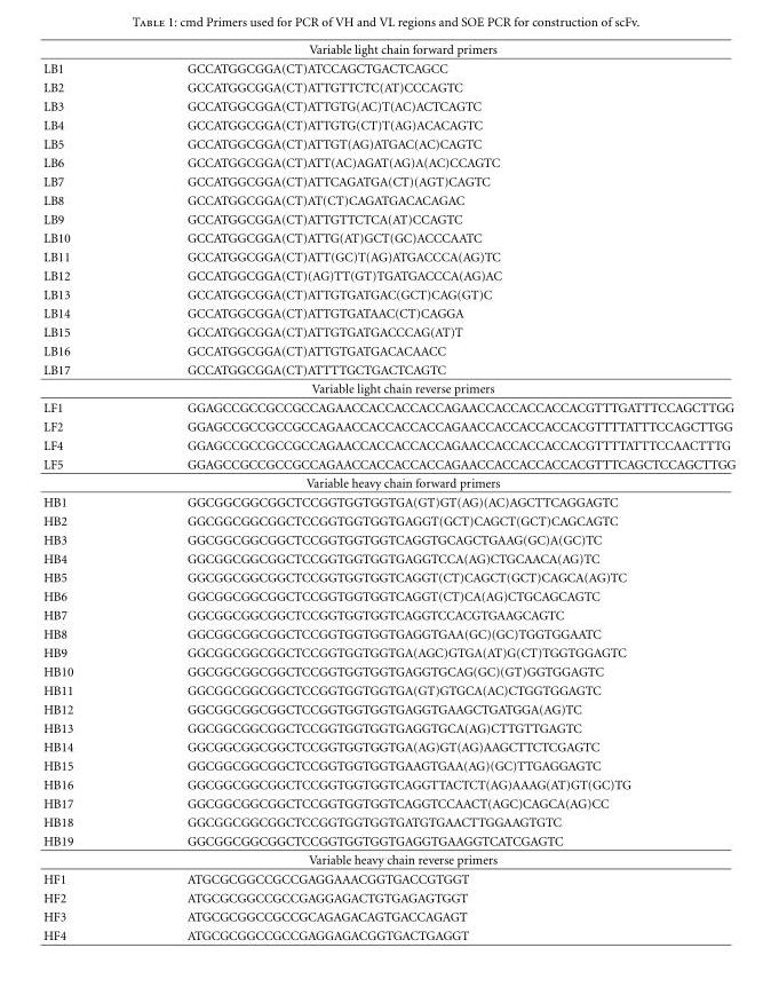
<table><thead><tr><td colspan="2">Variable light chain forward primers</td></tr><tr><td>LB1</td><td>GCCATGGCGGA(CT)ATCCAGCTGACTCAGCC</td></tr></thead><tbody><tr><td>LB2</td><td>GCCATGGCGGA(CT)ATTGTTCTC(AT)CCCAGTC</td></tr><tr><td>LB3</td><td>GCCATGGCGGA(CT)ATTGTG(AC)T(AC)ACTCAGTC</td></tr><tr><td>LB4</td><td>GCCATGGCGGA(CT)ATTGTG(CT)T(AG)ACACAGTC</td></tr><tr><td>LB5</td><td>GCCATGGCGGA(CT)ATTGT(AG)ATGAC(AC)CAGTC</td></tr><tr><td>LB6</td><td>GCCATGGCGGA(CT)ATT(AC)AGAT(AG)A(AC)CCAGTC</td></tr><tr><td>LB7</td><td>GCCATGGCGGA(CT)ATTCAGATGA(CT)(AGT)CAGTC</td></tr><tr><td>LB8</td><td>GCCATGGCGGA(CT)AT(CT)CAGATGACACAGAC</td></tr><tr><td>LB9</td><td>GCCATGGCGGA(CT)ATTGTTCTCA(AT)CCAGTC</td></tr><tr><td>LB10</td><td>GCCATGGCGGA(CT)ATTG(AT)GCT(GC)ACCCAATC</td></tr><tr><td>LB11</td><td>GCCATGGCGGA(CT)ATT(GC)T(AG)ATGACCCA(AG)TC</td></tr><tr><td>LB12</td><td>GCCATGGCGGA(CT)(AG)TT(GT)TGATGACCCA(AG)AC</td></tr><tr><td>LB13</td><td>GCCATGGCGGA(CT)ATTGTGATGAC(GCT)CAG(GT)C</td></tr><tr><td>LB14</td><td>GCCATGGCGGA(CT)ATTGTGATAAC(CT)CAGGA</td></tr><tr><td>LB15</td><td>GCCATGGCGGA(CT)ATTGTGATGACCCAG(AT)T</td></tr><tr><td>LB16</td><td>GCCATGGCGGA(CT)ATTGTGATGACACAACC</td></tr><tr><td>LB17</td><td>GCCATGGCGGA(CT)ATTTTGCTGACTCAGTC</td></tr><tr><td colspan="2">Variable light chain reverse primers</td></tr><tr><td>LF1</td><td>GGAGCCGCCGCCGCCAGAACCACCACCACCAGAACCACCACCACCACGTTTGATTTCCAGCTTGG</td></tr><tr><td>LF2</td><td>GGAGCCGCCGCCGCCAGAACCACCACCACCAGAACCACCACCACCACGTTTTATTTCCAGCTTGG</td></tr><tr><td>LF4</td><td>GGAGCCGCCGCCGCCAGAACCACCACCACCAGAACCACCACCACCACGTTTTATTTCCAACTTTG</td></tr><tr><td>LF5</td><td>GGAGCCGCCGCCGCCAGAACCACCACCACCAGAACCACCACCACCACGTTTCAGCTCCAGCTTGG</td></tr><tr><td colspan="2">Variable heavy chain forward primers</td></tr><tr><td>HB1</td><td>GGCGGCGGCGGCTCCGGTGGTGGTGA(GT)GT(AG)(AC)AGCTTCAGGAGTC</td></tr><tr><td>HB2</td><td>GGCGGCGGCGGCTCCGGTGGTGGTGAGGT(GCT)CAGCT(GCT)CAGCAGTC</td></tr><tr><td>HB3</td><td>GGCGGCGGCGGCTCCGGTGGTGGTCAGGTGCAGCTGAAG(GC)A(GC)TC</td></tr><tr><td>HB4</td><td>GGCGGCGGCGGCTCCGGTGGTGGTGAGGTCCA(AG)CTGCAACA(AG)TC</td></tr><tr><td>HB5</td><td>GGCGGCGGCGGCTCCGGTGGTGGTCAGGT(CT)CAGCT(GCT)CAGCA(AG)TC</td></tr><tr><td>HB6</td><td>GGCGGCGGCGGCTCCGGTGGTGGTCAGGT(CT)CA(AG)CTGCAGCAGTC</td></tr><tr><td>HB7</td><td>GGCGGCGGCGGCTCCGGTGGTGGTCAGGTCCACGTGAAGCAGTC</td></tr><tr><td>HB8</td><td>GGCGGCGGCGGCTCCGGTGGTGGTGAGGTGAA(GC)(GC)TGGTGGAATC</td></tr><tr><td>HB9</td><td>GGCGGCGGCGGCTCCGGTGGTGGTGA(AGC)GTGA(AT)G(CT)TGGTGGAGTC</td></tr><tr><td>HB10</td><td>GGCGGCGGCGGCTCCGGTGGTGGTGAGGTGCAG(GC)(GT)GGTGGAGTC</td></tr><tr><td>HB11</td><td>GGCGGCGGCGGCTCCGGTGGTGGTGA(GT)GTGCA(AC)CTGGTGGAGTC</td></tr><tr><td>HB12</td><td>GGCGGCGGCGGCTCCGGTGGTGGTGAGGTGAAGCTGATGGA(AG)TC</td></tr><tr><td>HB13</td><td>GGCGGCGGCGGCTCCGGTGGTGGTGAGGTGCA(AG)CTTGTTGAGTC</td></tr><tr><td>HB14</td><td>GGCGGCGGCGGCTCCGGTGGTGGTGA(AG)GT(AG)AAGCTTCTCGAGTC</td></tr><tr><td>HB15</td><td>GGCGGCGGCGGCTCCGGTGGTGGTGAAGTGAA(AG)(GC)TTGAGGAGTC</td></tr><tr><td>HB16</td><td>GGCGGCGGCGGCTCCGGTGGTGGTCAGGTTACTCT(AG)AAAG(AT)GT(GC)TG</td></tr><tr><td>HB17</td><td>GGCGGCGGCGGCTCCGGTGGTGGTCAGGTCCAACT(AGC)CAGCA(AG)CC</td></tr><tr><td>HB18</td><td>GGCGGCGGCGGCTCCGGTGGTGGTGATGTGAACTTGGAAGTGTC</td></tr><tr><td>HB19</td><td>GGCGGCGGCGGCTCCGGTGGTGGTGAGGTGAAGGTCATCGAGTC</td></tr><tr><td colspan="2">Variable heavy chain reverse primers</td></tr><tr><td>HF1</td><td>ATGCGCGGCCGCCGAGGAAACGGTGACCGTGGT</td></tr><tr><td>HF2</td><td>ATGCGCGGCCGCCGAGGAGACTGTGAGAGTGGT</td></tr><tr><td>HF3</td><td>ATGCGCGGCCGCCGCAGAGACAGTGACCAGAGT</td></tr><tr><td>HF4</td><td>ATGCGCGGCCGCCGAGGAGACGGTGACTGAGGT</td></tr></tbody></table>